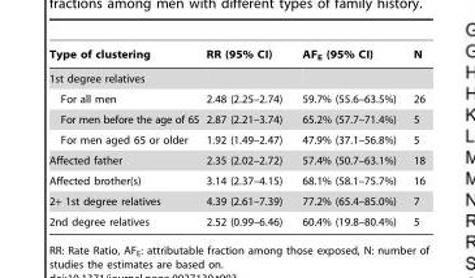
<table><thead><tr><td>Type of clustering</td><td>RR (95% CI)</td><td>AF<sub>E</sub> (95% CI)</td><td>N</td></tr></thead><tbody><tr><td colspan="4">1st degree relatives</td></tr><tr><td>For all men</td><td>2.48 (2.25–2.74)</td><td>59.7% (55.6–63.5%)</td><td>26</td></tr><tr><td>For men before the age of 65</td><td>2.87 (2.21–3.74)</td><td>65.2% (57.7–71.4%)</td><td>5</td></tr><tr><td>For men aged 65 or older</td><td>1.92 (1.49–2.47)</td><td>47.9% (37.1–56.8%)</td><td>5</td></tr><tr><td>Affected father</td><td>2.35 (2.02–2.72)</td><td>57.4% (50.7–63.1%)</td><td>18</td></tr><tr><td>Affected brother(s)</td><td>3.14 (2.37–4.15)</td><td>68.1% (58.1–75.7%)</td><td>16</td></tr><tr><td>2+ 1st degree relatives</td><td>4.39 (2.61–7.39)</td><td>77.2% (65.4–85.0%)</td><td>7</td></tr><tr><td>2nd degree relatives</td><td>2.52 (0.99–6.46)</td><td>60.4% (19.8–80.4%)</td><td>5</td></tr></tbody></table>